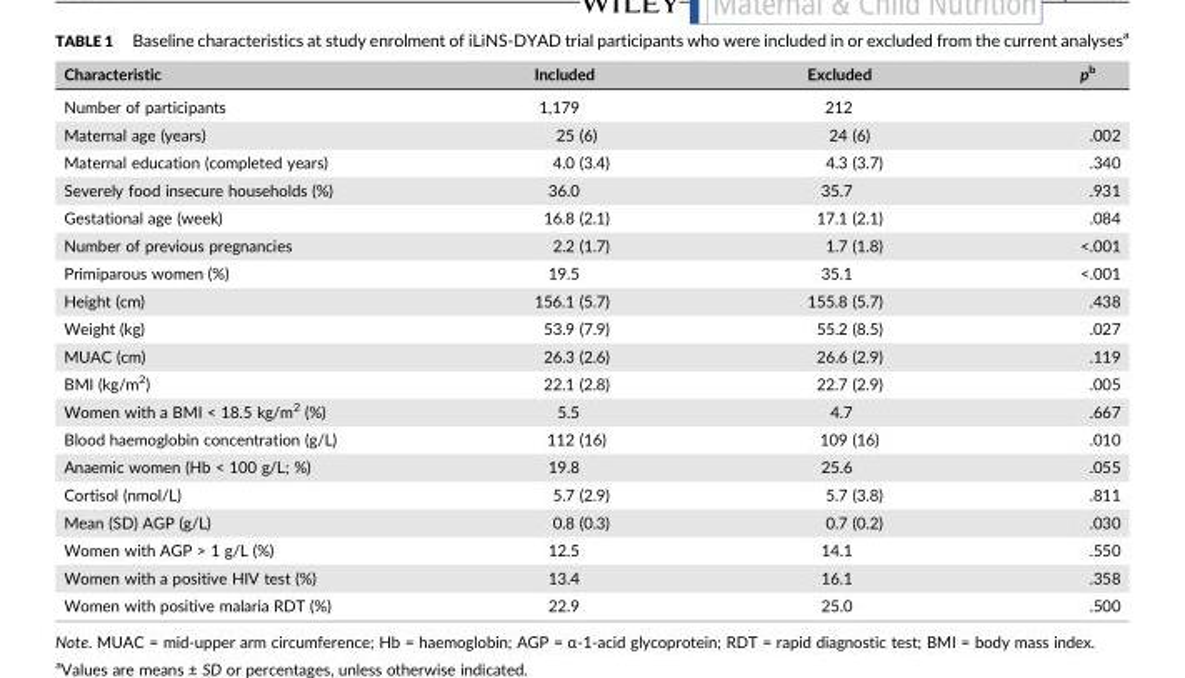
<table><thead><tr><td>Characteristic</td><td>Included</td><td>Excluded</td><td>pb</td></tr></thead><tbody><tr><td>Number of participants</td><td>1,179</td><td>212</td><td></td></tr><tr><td>Maternal age (years)</td><td>25 (6)</td><td>24 (6)</td><td>.002</td></tr><tr><td>Maternal education (completed years)</td><td>4.0 (3.4)</td><td>4.3 (3.7)</td><td>.340</td></tr><tr><td>Severely food insecure households (%)</td><td>36.0</td><td>35.7</td><td>.931</td></tr><tr><td>Gestational age (week)</td><td>16.8 (2.1)</td><td>17.1 (2.1)</td><td>.084</td></tr><tr><td>Number of previous pregnancies</td><td>2.2 (1.7)</td><td>1.7 (1.8)</td><td>&lt;.001</td></tr><tr><td>Primiparous women (%)</td><td>19.5</td><td>35.1</td><td>&lt;.001</td></tr><tr><td>Height (cm)</td><td>156.1 (5.7)</td><td>155.8 (5.7)</td><td>.438</td></tr><tr><td>Weight (kg)</td><td>53.9 (7.9)</td><td>55.2 (8.5)</td><td>.027</td></tr><tr><td>MUAC (cm)</td><td>26.3 (2.6)</td><td>26.6 (2.9)</td><td>.119</td></tr><tr><td>BMI (kg/m<sup>2</sup>)</td><td>22.1 (2.8)</td><td>22.7 (2.9)</td><td>.005</td></tr><tr><td>Women with a BMI &lt; 18.5 kg/m<sup>2</sup> (%)</td><td>5.5</td><td>4.7</td><td>.667</td></tr><tr><td>Blood haemoglobin concentration (g/L)</td><td>112 (16)</td><td>109 (16)</td><td>.010</td></tr><tr><td>Anaemic women (Hb &lt; 100 g/L; %)</td><td>19.8</td><td>25.6</td><td>.055</td></tr><tr><td>Cortisol (nmol/L)</td><td>5.7 (2.9)</td><td>5.7 (3.8)</td><td>.811</td></tr><tr><td>Mean (SD) AGP (g/L)</td><td>0.8 (0.3)</td><td>0.7 (0.2)</td><td>.030</td></tr><tr><td>Women with AGP &gt; 1 g/L (%)</td><td>12.5</td><td>14.1</td><td>.550</td></tr><tr><td>Women with a positive HIV test (%)</td><td>13.4</td><td>16.1</td><td>.358</td></tr><tr><td>Women with positive malaria RDT (%)</td><td>22.9</td><td>25.0</td><td>.500</td></tr></tbody></table>